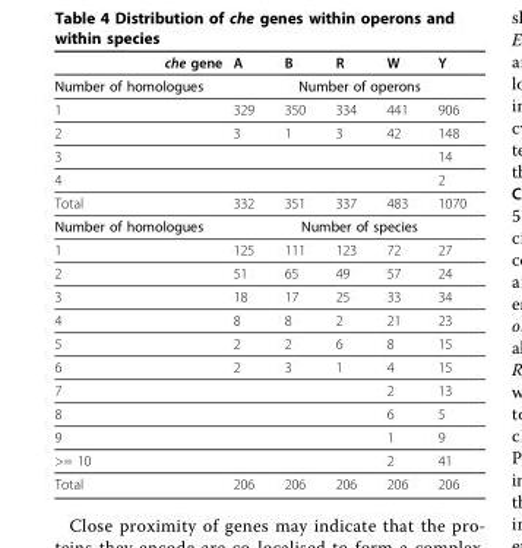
<table><thead><tr><td>che gene</td><td>A</td><td>B</td><td>R</td><td>W</td><td>Y</td></tr></thead><tbody><tr><td>Number of homologues</td><td colspan="5">Number of operons</td></tr><tr><td>1</td><td>329</td><td>350</td><td>334</td><td>441</td><td>906</td></tr><tr><td>2</td><td>3</td><td>1</td><td>3</td><td>42</td><td>148</td></tr><tr><td>3</td><td></td><td></td><td></td><td></td><td>14</td></tr><tr><td>4</td><td></td><td></td><td></td><td></td><td>2</td></tr><tr><td>Total</td><td>332</td><td>351</td><td>337</td><td>483</td><td>1070</td></tr><tr><td>Number of homologues</td><td colspan="5">Number of species</td></tr><tr><td>1</td><td>125</td><td>111</td><td>123</td><td>72</td><td>27</td></tr><tr><td>2</td><td>51</td><td>65</td><td>49</td><td>57</td><td>24</td></tr><tr><td>3</td><td>18</td><td>17</td><td>25</td><td>33</td><td>34</td></tr><tr><td>4</td><td>8</td><td>8</td><td>2</td><td>21</td><td>23</td></tr><tr><td>5</td><td>2</td><td>2</td><td>6</td><td>8</td><td>15</td></tr><tr><td>6</td><td>2</td><td>3</td><td>1</td><td>4</td><td>15</td></tr><tr><td>7</td><td></td><td></td><td></td><td>2</td><td>13</td></tr><tr><td>8</td><td></td><td></td><td></td><td>6</td><td>5</td></tr><tr><td>9</td><td></td><td></td><td></td><td>1</td><td>9</td></tr><tr><td>&gt;= 10</td><td></td><td></td><td></td><td>2</td><td>41</td></tr><tr><td>Total</td><td>206</td><td>206</td><td>206</td><td>206</td><td>206</td></tr></tbody></table>